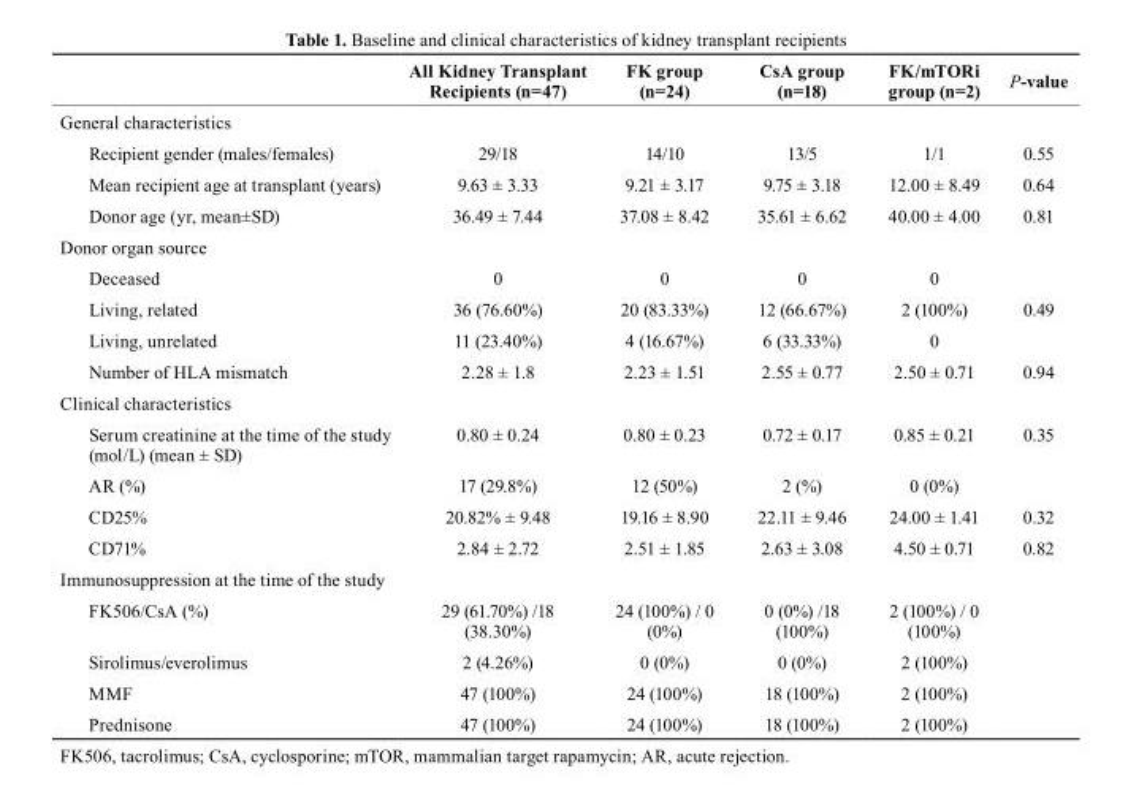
<table><thead><tr><td></td><td>All Kidney transplant recipients (n=47)</td><td>FK group (n=24)</td><td>csA group (n=18)</td><td>FK/mtOri group (n=2)</td><td>P-value</td></tr></thead><tbody><tr><td colspan="6">General characteristics</td></tr><tr><td>Recipient gender (males/females)</td><td>29/18</td><td>14/10</td><td>13/5</td><td>1/1</td><td>0.55</td></tr><tr><td>Mean recipient age at transplant (years)</td><td>9.63 ± 3.33</td><td>9.21 ± 3.17</td><td>9.75 ± 3.18</td><td>12.00 ± 8.49</td><td>0.64</td></tr><tr><td>Donor age (yr, mean±SD)</td><td>36.49 ± 7.44</td><td>37.08 ± 8.42</td><td>35.61 ± 6.62</td><td>40.00 ± 4.00</td><td>0.81</td></tr><tr><td colspan="6">Donor organ source</td></tr><tr><td>Deceased</td><td>0</td><td>0</td><td>0</td><td>0</td><td></td></tr><tr><td>Living, related</td><td>36 (76.60%)</td><td>20 (83.33%)</td><td>12 (66.67%)</td><td>2 (100%)</td><td>0.49</td></tr><tr><td>Living, unrelated</td><td>11 (23.40%)</td><td>4 (16.67%)</td><td>6 (33.33%)</td><td>0</td><td></td></tr><tr><td>Number of HLA mismatch</td><td>2.28 ± 1.8</td><td>2.23 ± 1.51</td><td>2.55 ± 0.77</td><td>2.50 ± 0.71</td><td>0.94</td></tr><tr><td colspan="6">Clinical characteristics</td></tr><tr><td>Serum creatinine at the time of the study (mol/L) (mean ± SD)</td><td>0.80 ± 0.24</td><td>0.80 ± 0.23</td><td>0.72 ± 0.17</td><td>0.85 ± 0.21</td><td>0.35</td></tr><tr><td>AR (%)</td><td>17 (29.8%)</td><td>12 (50%)</td><td>2 (%)</td><td>0 (0%)</td><td></td></tr><tr><td>CD25%</td><td>20.82% ± 9.48</td><td>19.16 ± 8.90</td><td>22.11 ± 9.46</td><td>24.00 ± 1.41</td><td>0.32</td></tr><tr><td>CD71%</td><td>2.84 ± 2.72</td><td>2.51 ± 1.85</td><td>2.63 ± 3.08</td><td>4.50 ± 0.71</td><td>0.82</td></tr><tr><td colspan="6">Immunosuppression at the time of the study</td></tr><tr><td>FK506/CsA (%)</td><td>29 (61.70%) /18 (38.30%)</td><td>24 (100%) / 0 (0%)</td><td>0 (0%) /18 (100%)</td><td>2 (100%) / 0 (100%)</td><td></td></tr><tr><td>Sirolimus/everolimus</td><td>2 (4.26%)</td><td>0 (0%)</td><td>0 (0%)</td><td>2 (100%)</td><td></td></tr><tr><td>MMF</td><td>47 (100%)</td><td>24 (100%)</td><td>18 (100%)</td><td>2 (100%)</td><td></td></tr><tr><td>Prednisone</td><td>47 (100%)</td><td>24 (100%)</td><td>18 (100%)</td><td>2 (100%)</td><td></td></tr></tbody></table>